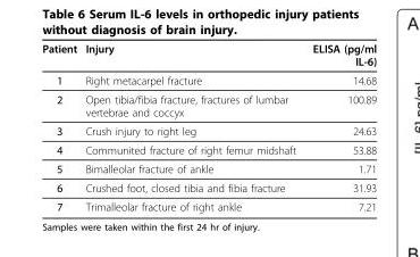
<table><thead><tr><td>Patient</td><td>Injury</td><td>ELISA (pg/ml IL-6)</td></tr></thead><tbody><tr><td>1</td><td>Right metacarpel fracture</td><td>14.68</td></tr><tr><td>2</td><td>Open tibia/fibia fracture, fractures of lumbar vertebrae and coccyx</td><td>100.89</td></tr><tr><td>3</td><td>Crush injury to right leg</td><td>24.63</td></tr><tr><td>4</td><td>Communited fracture of right femur midshaft</td><td>53.88</td></tr><tr><td>5</td><td>Bimalleolar fracture of ankle</td><td>1.71</td></tr><tr><td>6</td><td>Crushed foot, closed tibia and fibia fracture</td><td>31.93</td></tr><tr><td>7</td><td>Trimalleolar fracture of right ankle</td><td>7.21</td></tr></tbody></table>